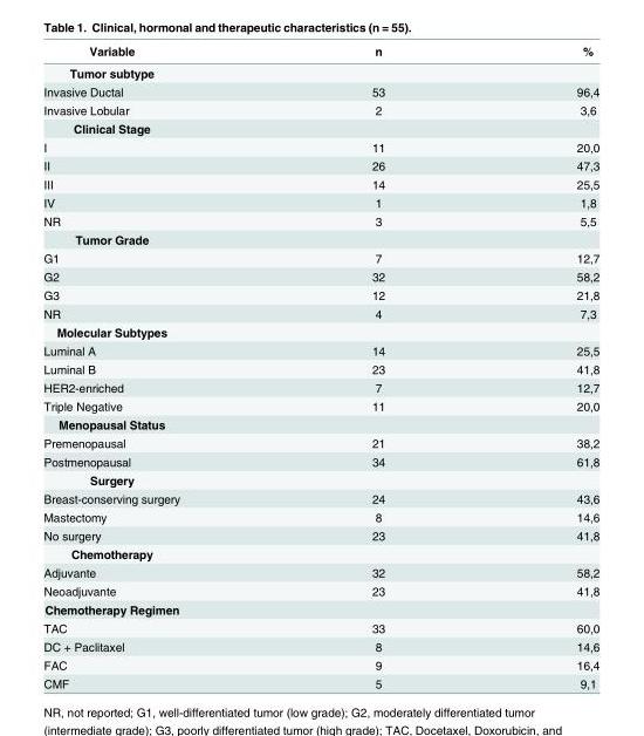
<table><thead><tr><td>Variable</td><td>n</td><td>%</td></tr></thead><tbody><tr><td colspan="3">Tumor subtype</td></tr><tr><td>Invasive Ductal</td><td>53</td><td>96,4</td></tr><tr><td>Invasive Lobular</td><td>2</td><td>3,6</td></tr><tr><td colspan="3">Clinical Stage</td></tr><tr><td>I</td><td>11</td><td>20,0</td></tr><tr><td>II</td><td>26</td><td>47,3</td></tr><tr><td>III</td><td>14</td><td>25,5</td></tr><tr><td>IV</td><td>1</td><td>1,8</td></tr><tr><td>NR</td><td>3</td><td>5,5</td></tr><tr><td colspan="3">Tumor Grade</td></tr><tr><td>G1</td><td>7</td><td>12,7</td></tr><tr><td>G2</td><td>32</td><td>58,2</td></tr><tr><td>G3</td><td>12</td><td>21,8</td></tr><tr><td>NR</td><td>4</td><td>7,3</td></tr><tr><td colspan="3">Molecular Subtypes</td></tr><tr><td>Luminal A</td><td>14</td><td>25,5</td></tr><tr><td>Luminal B</td><td>23</td><td>41,8</td></tr><tr><td>HER2-enriched</td><td>7</td><td>12,7</td></tr><tr><td>Triple Negative</td><td>11</td><td>20,0</td></tr><tr><td colspan="3">Menopausal Status</td></tr><tr><td>Premenopausal</td><td>21</td><td>38,2</td></tr><tr><td>Postmenopausal</td><td>34</td><td>61,8</td></tr><tr><td colspan="3">Surgery</td></tr><tr><td>Breast-conserving surgery</td><td>24</td><td>43,6</td></tr><tr><td>Mastectomy</td><td>8</td><td>14,6</td></tr><tr><td>No surgery</td><td>23</td><td>41,8</td></tr><tr><td colspan="3">Chemotherapy</td></tr><tr><td>Adjuvante</td><td>32</td><td>58,2</td></tr><tr><td>Neoadjuvante</td><td>23</td><td>41,8</td></tr><tr><td colspan="3">Chemotherapy Regimen</td></tr><tr><td>TAC</td><td>33</td><td>60,0</td></tr><tr><td>DC + Paclitaxel</td><td>8</td><td>14,6</td></tr><tr><td>FAC</td><td>9</td><td>16,4</td></tr><tr><td>CMF</td><td>5</td><td>9,1</td></tr></tbody></table>